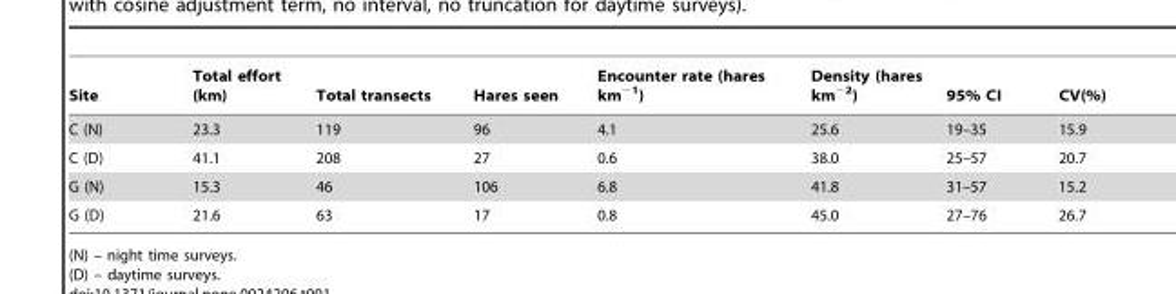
<table><thead><tr><td>Site</td><td>Total effort (km)</td><td>Total transects</td><td>Hares seen</td><td>Encounter rate (hares km<sup>−1</sup>)</td><td>Density (hares km<sup>−2</sup>)</td><td>95% CI</td><td>CV(%)</td></tr></thead><tbody><tr><td>C (N)</td><td>23.3</td><td>119</td><td>96</td><td>4.1</td><td>25.6</td><td>19–35</td><td>15.9</td></tr><tr><td>C (D)</td><td>41.1</td><td>208</td><td>27</td><td>0.6</td><td>38.0</td><td>25–57</td><td>20.7</td></tr><tr><td>G (N)</td><td>15.3</td><td>46</td><td>106</td><td>6.8</td><td>41.8</td><td>31–57</td><td>15.2</td></tr><tr><td>G (D)</td><td>21.6</td><td>63</td><td>17</td><td>0.8</td><td>45.0</td><td>27–76</td><td>26.7</td></tr></tbody></table>